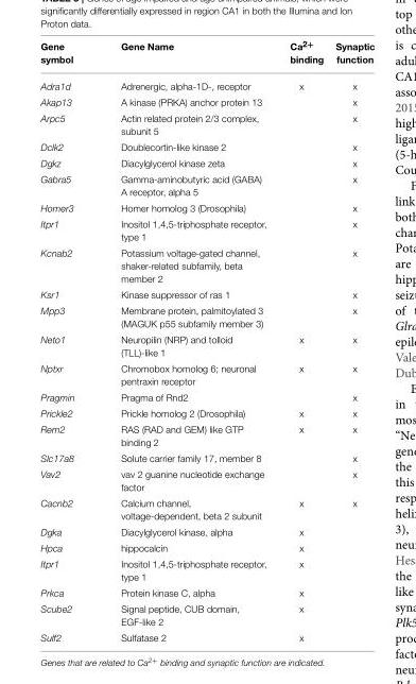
<table><thead><tr><td>Gene symbol</td><td>Gene Name</td><td>Ca<sup>2+</sup> binding</td><td>Synaptic function</td></tr></thead><tbody><tr><td>Adra1d</td><td>Adrenergic, alpha-1D-, receptor</td><td>x</td><td>x</td></tr><tr><td>Akap13</td><td>A kinase (PRKA) anchor protein 13</td><td></td><td>x</td></tr><tr><td>Arpc5</td><td>Actin related protein 2/3 complex, subunit 5</td><td></td><td>x</td></tr><tr><td>Dclk2</td><td>Doublecortin-like kinase 2</td><td></td><td>x</td></tr><tr><td>Dgkz</td><td>Diacylglycerol kinase zeta</td><td></td><td>x</td></tr><tr><td>Gabra5</td><td>Gamma-aminobutyric acid (GABA) A receptor, alpha 5</td><td></td><td>x</td></tr><tr><td>Homer3</td><td>Homer homolog 3 (Drosophila)</td><td></td><td>x</td></tr><tr><td>Itpr1</td><td>Inositol 1,4,5-triphosphate receptor, type 1</td><td></td><td>x</td></tr><tr><td>Kcnab2</td><td>Potassium voltage-gated channel, shaker-related subfamily, beta member 2</td><td></td><td>x</td></tr><tr><td>Ksr1</td><td>Kinase suppressor of ras 1</td><td></td><td>x</td></tr><tr><td>Mpp3</td><td>Membrane protein, palmitoylated 3 (MAGUK p55 subfamily member 3)</td><td></td><td>x</td></tr><tr><td>Neto1</td><td>Neuropilin (NRP) and tolloid (TLL)-like 1</td><td>x</td><td>x</td></tr><tr><td>Nptxr</td><td>Chromobox homolog 6; neuronal pentraxin receptor</td><td>x</td><td>x</td></tr><tr><td>Pragmin</td><td>Pragma of Rnd2</td><td></td><td>x</td></tr><tr><td>Prickle2</td><td>Prickle homolog 2 (Drosophila)</td><td>x</td><td>x</td></tr><tr><td>Rem2</td><td>RAS (RAD and GEM) like GTP binding 2</td><td>x</td><td>x</td></tr><tr><td>Slc17a8</td><td>Solute carrier family 17, member 8</td><td></td><td>x</td></tr><tr><td>Vav2</td><td>vav 2 guanine nucleotide exchange factor</td><td></td><td>x</td></tr><tr><td>Cacnb2</td><td>Calcium channel, voltage-dependent, beta 2 subunit</td><td>x</td><td>x</td></tr><tr><td>Dgka</td><td>Diacylglycerol kinase, alpha</td><td>x</td><td></td></tr><tr><td>Hpca</td><td>hippocalcin</td><td>x</td><td></td></tr><tr><td>Itpr1</td><td>Inositol 1,4,5-triphosphate receptor, type 1</td><td>x</td><td></td></tr><tr><td>Prkca</td><td>Protein kinase C, alpha</td><td>x</td><td></td></tr><tr><td>Scube2</td><td>Signal peptide, CUB domain, EGF-like 2</td><td>x</td><td></td></tr><tr><td>Sulf2</td><td>Sulfatase 2</td><td>x</td><td></td></tr></tbody></table>